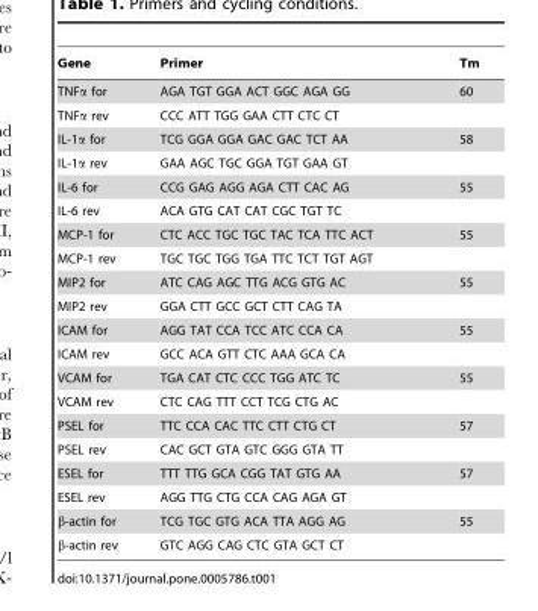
<table><thead><tr><td>Gene</td><td>Primer</td><td>Tm</td></tr></thead><tbody><tr><td>TNFα for</td><td>AGA TGT GGA ACT GGC AGA GG</td><td>60</td></tr><tr><td>TNFα rev</td><td>CCC ATT TGG GAA CTT CTC CT</td><td></td></tr><tr><td>IL-1α for</td><td>TCG GGA GGA GAC GAC TCT AA</td><td>58</td></tr><tr><td>IL-1α rev</td><td>GAA AGC TGC GGA TGT GAA GT</td><td></td></tr><tr><td>IL-6 for</td><td>CCG GAG AGG AGA CTT CAC AG</td><td>55</td></tr><tr><td>IL-6 rev</td><td>ACA GTG CAT CAT CGC TGT TC</td><td></td></tr><tr><td>MCP-1 for</td><td>CTC ACC TGC TGC TAC TCA TTC ACT</td><td>55</td></tr><tr><td>MCP-1 rev</td><td>TGC TGC TGG TGA TTC TCT TGT AGT</td><td></td></tr><tr><td>MIP2 for</td><td>ATC CAG AGC TTG ACG GTG AC</td><td>55</td></tr><tr><td>MIP2 rev</td><td>GGA CTT GCC GCT CTT CAG TA</td><td></td></tr><tr><td>ICAM for</td><td>AGG TAT CCA TCC ATC CCA CA</td><td>55</td></tr><tr><td>ICAM rev</td><td>GCC ACA GTT CTC AAA GCA CA</td><td></td></tr><tr><td>VCAM for</td><td>TGA CAT CTC CCC TGG ATC TC</td><td>55</td></tr><tr><td>VCAM rev</td><td>CTC CAG TTT CCT TCG CTG AC</td><td></td></tr><tr><td>PSEL for</td><td>TTC CCA CAC TTC CTT CTG CT</td><td>57</td></tr><tr><td>PSEL rev</td><td>CAC GCT GTA GTC GGG GTA TT</td><td></td></tr><tr><td>ESEL for</td><td>TTT TTG GCA CGG TAT GTG AA</td><td>57</td></tr><tr><td>ESEL rev</td><td>AGG TTG CTG CCA CAG AGA GT</td><td></td></tr><tr><td>β-actin for</td><td>TCG TGC GTG ACA TTA AGG AG</td><td>55</td></tr><tr><td>β-actin rev</td><td>GTC AGG CAG CTC GTA GCT CT</td><td></td></tr></tbody></table>